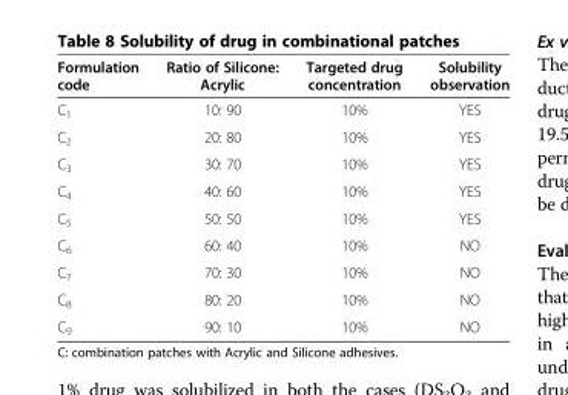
<table><thead><tr><td>Formulation code</td><td>Ratio of Silicone: Acrylic</td><td>Targeted drug concentration</td><td>Solubility observation</td></tr></thead><tbody><tr><td>C<sub>1</sub></td><td>10: 90</td><td>10%</td><td>YES</td></tr><tr><td>C<sub>2</sub></td><td>20: 80</td><td>10%</td><td>YES</td></tr><tr><td>C<sub>3</sub></td><td>30: 70</td><td>10%</td><td>YES</td></tr><tr><td>C<sub>4</sub></td><td>40: 60</td><td>10%</td><td>YES</td></tr><tr><td>C<sub>5</sub></td><td>50: 50</td><td>10%</td><td>YES</td></tr><tr><td>C<sub>6</sub></td><td>60: 40</td><td>10%</td><td>NO</td></tr><tr><td>C<sub>7</sub></td><td>70: 30</td><td>10%</td><td>NO</td></tr><tr><td>C<sub>8</sub></td><td>80: 20</td><td>10%</td><td>NO</td></tr><tr><td>C<sub>9</sub></td><td>90: 10</td><td>10%</td><td>NO</td></tr></tbody></table>